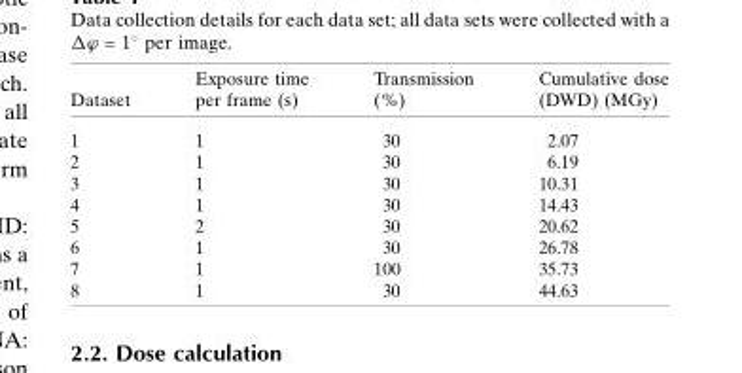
<table><thead><tr><td>Dataset</td><td>Exposure time per frame (s)</td><td>Transmission (%)</td><td>Cumulative dose (DWD) (MGy)</td></tr></thead><tbody><tr><td>1</td><td>1</td><td>30</td><td>2.07</td></tr><tr><td>2</td><td>1</td><td>30</td><td>6.19</td></tr><tr><td>3</td><td>1</td><td>30</td><td>10.31</td></tr><tr><td>4</td><td>1</td><td>30</td><td>14.43</td></tr><tr><td>5</td><td>2</td><td>30</td><td>20.62</td></tr><tr><td>6</td><td>1</td><td>30</td><td>26.78</td></tr><tr><td>7</td><td>1</td><td>100</td><td>35.73</td></tr><tr><td>8</td><td>1</td><td>30</td><td>44.63</td></tr></tbody></table>